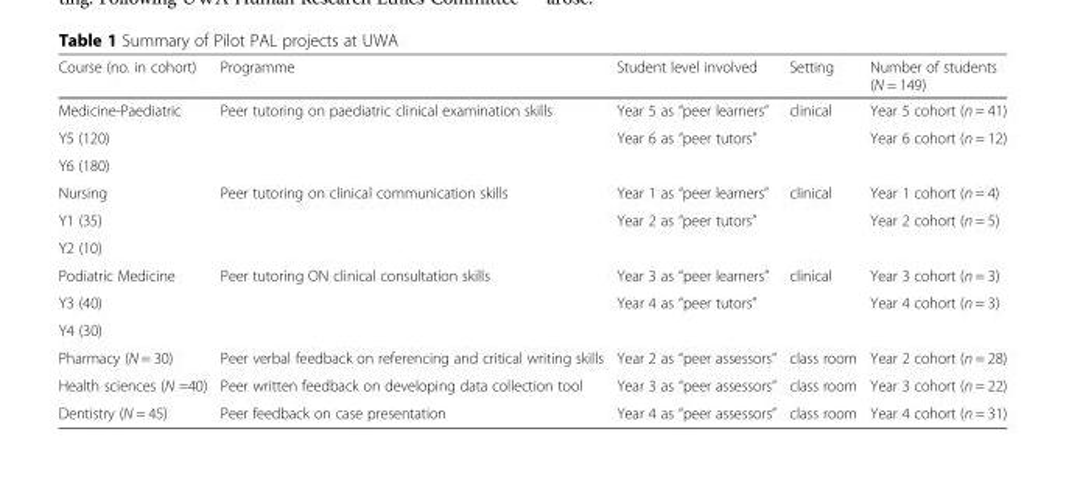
<table><thead><tr><td>Course (no. in cohort)</td><td>Programme</td><td>Student level involved</td><td>Setting</td><td>Number of students (N = 149)</td></tr></thead><tbody><tr><td>Medicine-Paediatric</td><td rowspan="3">Peer tutoring on paediatric clinical examination skills</td><td>Year 5 as “peer learners”</td><td rowspan="3">clinical</td><td>Year 5 cohort (n = 41)</td></tr><tr><td>Y5 (120)</td><td rowspan="2">Year 6 as “peer tutors”</td><td rowspan="2">Year 6 cohort (n = 12)</td></tr><tr><td>Y6 (180)</td></tr><tr><td>Nursing</td><td rowspan="3">Peer tutoring on clinical communication skills</td><td>Year 1 as “peer learners”</td><td rowspan="3">clinical</td><td>Year 1 cohort (n = 4)</td></tr><tr><td>Y1 (35)</td><td rowspan="2">Year 2 as “peer tutors”</td><td rowspan="2">Year 2 cohort (n = 5)</td></tr><tr><td>Y2 (10)</td></tr><tr><td>Podiatric Medicine</td><td rowspan="3">Peer tutoring ON clinical consultation skills</td><td>Year 3 as “peer learners”</td><td rowspan="3">clinical</td><td>Year 3 cohort (n = 3)</td></tr><tr><td>Y3 (40)</td><td rowspan="2">Year 4 as “peer tutors”</td><td rowspan="2">Year 4 cohort (n = 3)</td></tr><tr><td>Y4 (30)</td></tr><tr><td>Pharmacy (N = 30)</td><td>Peer verbal feedback on referencing and critical writing skills</td><td>Year 2 as “peer assessors”</td><td>class room</td><td>Year 2 cohort (n = 28)</td></tr><tr><td>Health sciences (N =40)</td><td>Peer written feedback on developing data collection tool</td><td>Year 3 as “peer assessors”</td><td>class room</td><td>Year 3 cohort (n = 22)</td></tr><tr><td>Dentistry (N = 45)</td><td>Peer feedback on case presentation</td><td>Year 4 as “peer assessors”</td><td>class room</td><td>Year 4 cohort (n = 31)</td></tr></tbody></table>